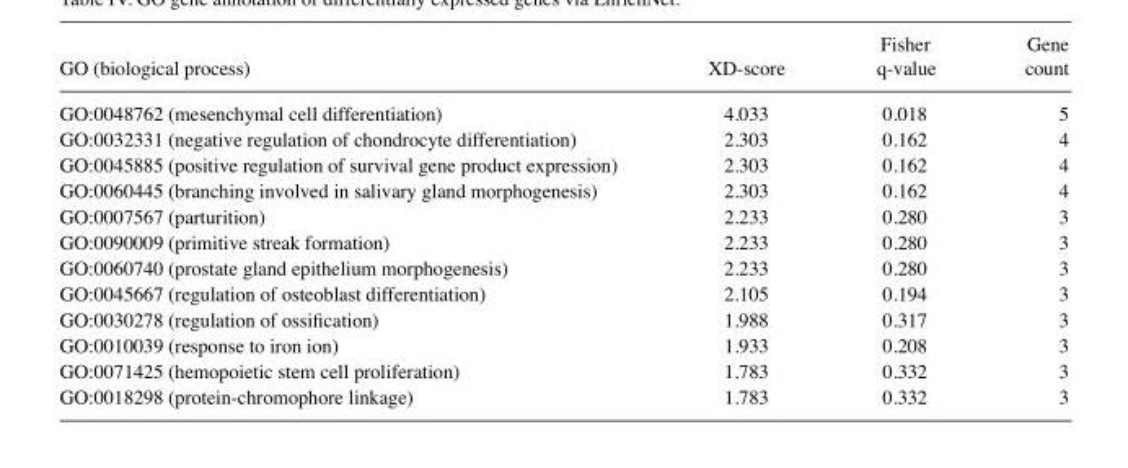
<table><thead><tr><td>GO (biological process)</td><td>XD‑score</td><td>q‑value</td><td>count</td></tr></thead><tbody><tr><td>GO:0048762 (mesenchymal cell differentiation)</td><td>4.033</td><td>0.018</td><td>5</td></tr><tr><td>GO:0032331 (negative regulation of chondrocyte differentiation)</td><td>2.303</td><td>0.162</td><td>4</td></tr><tr><td>GO:0045885 (positive regulation of survival gene product expression)</td><td>2.303</td><td>0.162</td><td>4</td></tr><tr><td>GO:0060445 (branching involved in salivary gland morphogenesis)</td><td>2.303</td><td>0.162</td><td>4</td></tr><tr><td>GO:0007567 (parturition)</td><td>2.233</td><td>0.280</td><td>3</td></tr><tr><td>GO:0090009 (primitive streak formation)</td><td>2.233</td><td>0.280</td><td>3</td></tr><tr><td>GO:0060740 (prostate gland epithelium morphogenesis)</td><td>2.233</td><td>0.280</td><td>3</td></tr><tr><td>GO:0045667 (regulation of osteoblast differentiation)</td><td>2.105</td><td>0.194</td><td>3</td></tr><tr><td>GO:0030278 (regulation of ossification)</td><td>1.988</td><td>0.317</td><td>3</td></tr><tr><td>GO:0010039 (response to iron ion)</td><td>1.933</td><td>0.208</td><td>3</td></tr><tr><td>GO:0071425 (hemopoietic stem cell proliferation)</td><td>1.783</td><td>0.332</td><td>3</td></tr><tr><td>GO:0018298 (protein‑chromophore linkage)</td><td>1.783</td><td>0.332</td><td>3</td></tr></tbody></table>